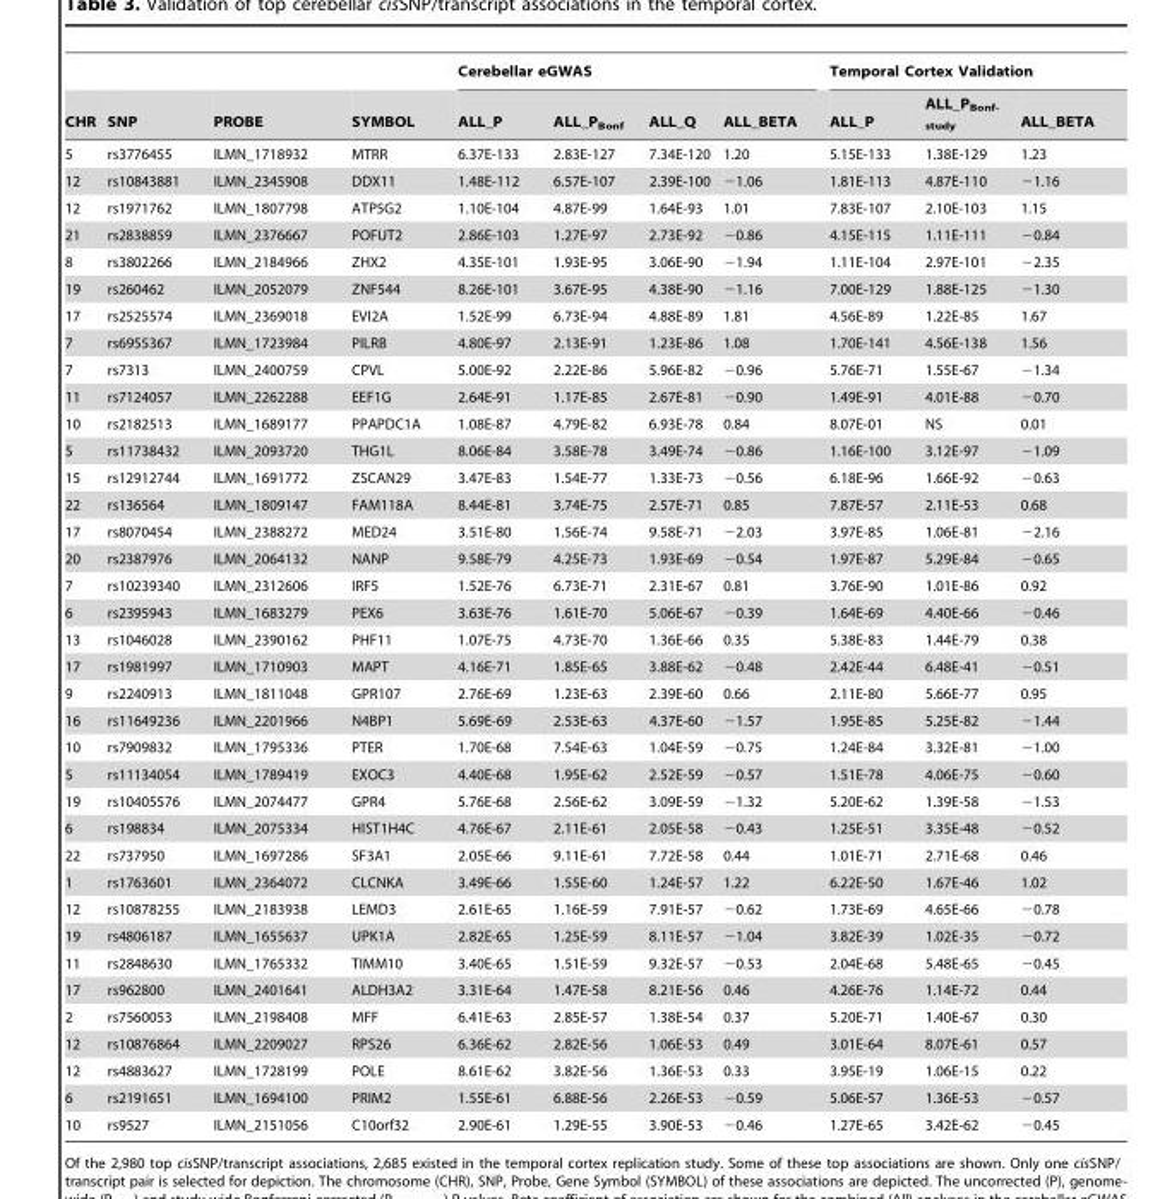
<table><thead><tr><td rowspan="2">CHR</td><td rowspan="2">SNP</td><td rowspan="2">PROBE</td><td rowspan="2">SYMBOL</td><td colspan="4">Cerebellar eGWAS</td><td colspan="3">Temporal Cortex Validation</td></tr><tr><td>ALL_P</td><td>ALL_P<sub>Bonf</sub></td><td>ALL_Q</td><td>ALL_BETA</td><td>ALL_P</td><td>ALL_P<sub>Bonf- study</sub></td><td>ALL_BETA</td></tr></thead><tbody><tr><td>5</td><td>rs3776455</td><td>ILMN_1718932</td><td>MTRR</td><td>6.37E-133</td><td>2.83E-127</td><td>7.34E-120</td><td>1.20</td><td>5.15E-133</td><td>1.38E-129</td><td>1.23</td></tr><tr><td>12</td><td>rs10843881</td><td>ILMN_2345908</td><td>DDX11</td><td>1.48E-112</td><td>6.57E-107</td><td>2.39E-100</td><td>−1.06</td><td>1.81E-113</td><td>4.87E-110</td><td>−1.16</td></tr><tr><td>12</td><td>rs1971762</td><td>ILMN_1807798</td><td>ATP5G2</td><td>1.10E-104</td><td>4.87E-99</td><td>1.64E-93</td><td>1.01</td><td>7.83E-107</td><td>2.10E-103</td><td>1.15</td></tr><tr><td>21</td><td>rs2838859</td><td>ILMN_2376667</td><td>POFUT2</td><td>2.86E-103</td><td>1.27E-97</td><td>2.73E-92</td><td>−0.86</td><td>4.15E-115</td><td>1.11E-111</td><td>−0.84</td></tr><tr><td>8</td><td>rs3802266</td><td>ILMN_2184966</td><td>ZHX2</td><td>4.35E-101</td><td>1.93E-95</td><td>3.06E-90</td><td>−1.94</td><td>1.11E-104</td><td>2.97E-101</td><td>−2.35</td></tr><tr><td>19</td><td>rs260462</td><td>ILMN_2052079</td><td>ZNF544</td><td>8.26E-101</td><td>3.67E-95</td><td>4.38E-90</td><td>−1.16</td><td>7.00E-129</td><td>1.88E-125</td><td>−1.30</td></tr><tr><td>17</td><td>rs2525574</td><td>ILMN_2369018</td><td>EVI2A</td><td>1.52E-99</td><td>6.73E-94</td><td>4.88E-89</td><td>1.81</td><td>4.56E-89</td><td>1.22E-85</td><td>1.67</td></tr><tr><td>7</td><td>rs6955367</td><td>ILMN_1723984</td><td>PILRB</td><td>4.80E-97</td><td>2.13E-91</td><td>1.23E-86</td><td>1.08</td><td>1.70E-141</td><td>4.56E-138</td><td>1.56</td></tr><tr><td>7</td><td>rs7313</td><td>ILMN_2400759</td><td>CPVL</td><td>5.00E-92</td><td>2.22E-86</td><td>5.96E-82</td><td>−0.96</td><td>5.76E-71</td><td>1.55E-67</td><td>−1.34</td></tr><tr><td>11</td><td>rs7124057</td><td>ILMN_2262288</td><td>EEF1G</td><td>2.64E-91</td><td>1.17E-85</td><td>2.67E-81</td><td>−0.90</td><td>1.49E-91</td><td>4.01E-88</td><td>−0.70</td></tr><tr><td>10</td><td>rs2182513</td><td>ILMN_1689177</td><td>PPAPDC1A</td><td>1.08E-87</td><td>4.79E-82</td><td>6.93E-78</td><td>0.84</td><td>8.07E-01</td><td>NS</td><td>0.01</td></tr><tr><td>5</td><td>rs11738432</td><td>ILMN_2093720</td><td>THG1L</td><td>8.06E-84</td><td>3.58E-78</td><td>3.49E-74</td><td>−0.86</td><td>1.16E-100</td><td>3.12E-97</td><td>−1.09</td></tr><tr><td>15</td><td>rs12912744</td><td>ILMN_1691772</td><td>ZSCAN29</td><td>3.47E-83</td><td>1.54E-77</td><td>1.33E-73</td><td>−0.56</td><td>6.18E-96</td><td>1.66E-92</td><td>−0.63</td></tr><tr><td>22</td><td>rs136564</td><td>ILMN_1809147</td><td>FAM118A</td><td>8.44E-81</td><td>3.74E-75</td><td>2.57E-71</td><td>0.85</td><td>7.87E-57</td><td>2.11E-53</td><td>0.68</td></tr><tr><td>17</td><td>rs8070454</td><td>ILMN_2388272</td><td>MED24</td><td>3.51E-80</td><td>1.56E-74</td><td>9.58E-71</td><td>−2.03</td><td>3.97E-85</td><td>1.06E-81</td><td>−2.16</td></tr><tr><td>20</td><td>rs2387976</td><td>ILMN_2064132</td><td>NANP</td><td>9.58E-79</td><td>4.25E-73</td><td>1.93E-69</td><td>−0.54</td><td>1.97E-87</td><td>5.29E-84</td><td>−0.65</td></tr><tr><td>7</td><td>rs10239340</td><td>ILMN_2312606</td><td>IRF5</td><td>1.52E-76</td><td>6.73E-71</td><td>2.31E-67</td><td>0.81</td><td>3.76E-90</td><td>1.01E-86</td><td>0.92</td></tr><tr><td>6</td><td>rs2395943</td><td>ILMN_1683279</td><td>PEX6</td><td>3.63E-76</td><td>1.61E-70</td><td>5.06E-67</td><td>−0.39</td><td>1.64E-69</td><td>4.40E-66</td><td>−0.46</td></tr><tr><td>13</td><td>rs1046028</td><td>ILMN_2390162</td><td>PHF11</td><td>1.07E-75</td><td>4.73E-70</td><td>1.36E-66</td><td>0.35</td><td>5.38E-83</td><td>1.44E-79</td><td>0.38</td></tr><tr><td>17</td><td>rs1981997</td><td>ILMN_1710903</td><td>MAPT</td><td>4.16E-71</td><td>1.85E-65</td><td>3.88E-62</td><td>−0.48</td><td>2.42E-44</td><td>6.48E-41</td><td>−0.51</td></tr><tr><td>9</td><td>rs2240913</td><td>ILMN_1811048</td><td>GPR107</td><td>2.76E-69</td><td>1.23E-63</td><td>2.39E-60</td><td>0.66</td><td>2.11E-80</td><td>5.66E-77</td><td>0.95</td></tr><tr><td>16</td><td>rs11649236</td><td>ILMN_2201966</td><td>N4BP1</td><td>5.69E-69</td><td>2.53E-63</td><td>4.37E-60</td><td>−1.57</td><td>1.95E-85</td><td>5.25E-82</td><td>−1.44</td></tr><tr><td>10</td><td>rs7909832</td><td>ILMN_1795336</td><td>PTER</td><td>1.70E-68</td><td>7.54E-63</td><td>1.04E-59</td><td>−0.75</td><td>1.24E-84</td><td>3.32E-81</td><td>−1.00</td></tr><tr><td>5</td><td>rs11134054</td><td>ILMN_1789419</td><td>EXOC3</td><td>4.40E-68</td><td>1.95E-62</td><td>2.52E-59</td><td>−0.57</td><td>1.51E-78</td><td>4.06E-75</td><td>−0.60</td></tr><tr><td>19</td><td>rs10405576</td><td>ILMN_2074477</td><td>GPR4</td><td>5.76E-68</td><td>2.56E-62</td><td>3.09E-59</td><td>−1.32</td><td>5.20E-62</td><td>1.39E-58</td><td>−1.53</td></tr><tr><td>6</td><td>rs198834</td><td>ILMN_2075334</td><td>HIST1H4C</td><td>4.76E-67</td><td>2.11E-61</td><td>2.05E-58</td><td>−0.43</td><td>1.25E-51</td><td>3.35E-48</td><td>−0.52</td></tr><tr><td>22</td><td>rs737950</td><td>ILMN_1697286</td><td>SF3A1</td><td>2.05E-66</td><td>9.11E-61</td><td>7.72E-58</td><td>0.44</td><td>1.01E-71</td><td>2.71E-68</td><td>0.46</td></tr><tr><td>1</td><td>rs1763601</td><td>ILMN_2364072</td><td>CLCNKA</td><td>3.49E-66</td><td>1.55E-60</td><td>1.24E-57</td><td>1.22</td><td>6.22E-50</td><td>1.67E-46</td><td>1.02</td></tr><tr><td>12</td><td>rs10878255</td><td>ILMN_2183938</td><td>LEMD3</td><td>2.61E-65</td><td>1.16E-59</td><td>7.91E-57</td><td>−0.62</td><td>1.73E-69</td><td>4.65E-66</td><td>−0.78</td></tr><tr><td>19</td><td>rs4806187</td><td>ILMN_1655637</td><td>UPK1A</td><td>2.82E-65</td><td>1.25E-59</td><td>8.11E-57</td><td>−1.04</td><td>3.82E-39</td><td>1.02E-35</td><td>−0.72</td></tr><tr><td>11</td><td>rs2848630</td><td>ILMN_1765332</td><td>TIMM10</td><td>3.40E-65</td><td>1.51E-59</td><td>9.32E-57</td><td>−0.53</td><td>2.04E-68</td><td>5.48E-65</td><td>−0.45</td></tr><tr><td>17</td><td>rs962800</td><td>ILMN_2401641</td><td>ALDH3A2</td><td>3.31E-64</td><td>1.47E-58</td><td>8.21E-56</td><td>0.46</td><td>4.26E-76</td><td>1.14E-72</td><td>0.44</td></tr><tr><td>2</td><td>rs7560053</td><td>ILMN_2198408</td><td>MFF</td><td>6.41E-63</td><td>2.85E-57</td><td>1.38E-54</td><td>0.37</td><td>5.20E-71</td><td>1.40E-67</td><td>0.30</td></tr><tr><td>12</td><td>rs10876864</td><td>ILMN_2209027</td><td>RPS26</td><td>6.36E-62</td><td>2.82E-56</td><td>1.06E-53</td><td>0.49</td><td>3.01E-64</td><td>8.07E-61</td><td>0.57</td></tr><tr><td>12</td><td>rs4883627</td><td>ILMN_1728199</td><td>POLE</td><td>8.61E-62</td><td>3.82E-56</td><td>1.36E-53</td><td>0.33</td><td>3.95E-19</td><td>1.06E-15</td><td>0.22</td></tr><tr><td>6</td><td>rs2191651</td><td>ILMN_1694100</td><td>PRIM2</td><td>1.55E-61</td><td>6.88E-56</td><td>2.26E-53</td><td>−0.59</td><td>5.06E-57</td><td>1.36E-53</td><td>−0.57</td></tr><tr><td>10</td><td>rs9527</td><td>ILMN_2151056</td><td>C10orf32</td><td>2.90E-61</td><td>1.29E-55</td><td>3.90E-53</td><td>−0.46</td><td>1.27E-65</td><td>3.42E-62</td><td>−0.45</td></tr></tbody></table>